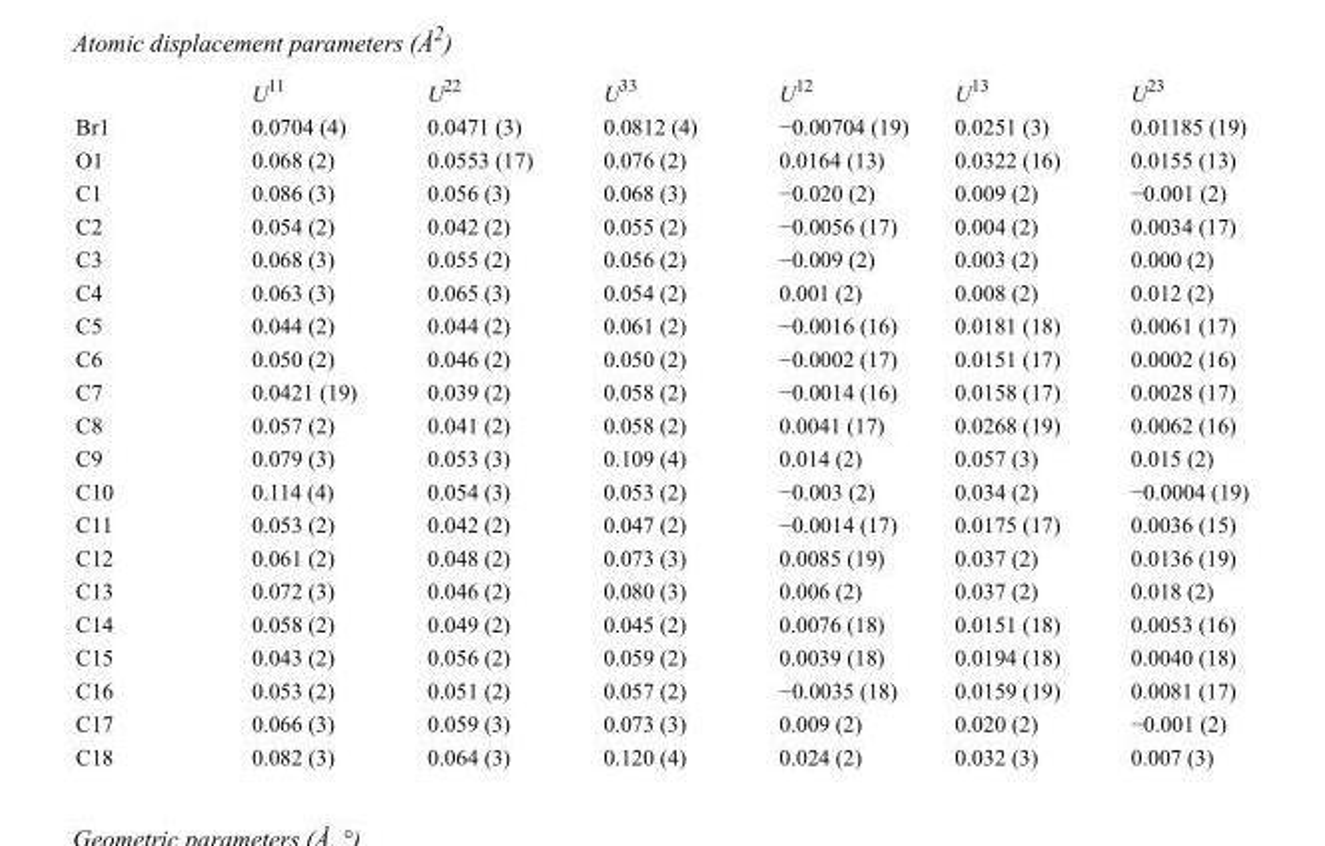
<table><thead><tr><td></td><td>U<sup>11</sup></td><td>U<sup>22</sup></td><td>U<sup>33</sup></td><td>U<sup>12</sup></td><td>U<sup>13</sup></td><td>U<sup>23</sup></td></tr></thead><tbody><tr><td>Br1</td><td>0.0704 (4)</td><td>0.0471 (3)</td><td>0.0812 (4)</td><td>−0.00704 (19)</td><td>0.0251 (3)</td><td>0.01185 (19)</td></tr><tr><td>O1</td><td>0.068 (2)</td><td>0.0553 (17)</td><td>0.076 (2)</td><td>0.0164 (13)</td><td>0.0322 (16)</td><td>0.0155 (13)</td></tr><tr><td>C1</td><td>0.086 (3)</td><td>0.056 (3)</td><td>0.068 (3)</td><td>−0.020 (2)</td><td>0.009 (2)</td><td>−0.001 (2)</td></tr><tr><td>C2</td><td>0.054 (2)</td><td>0.042 (2)</td><td>0.055 (2)</td><td>−0.0056 (17)</td><td>0.004 (2)</td><td>0.0034 (17)</td></tr><tr><td>C3</td><td>0.068 (3)</td><td>0.055 (2)</td><td>0.056 (2)</td><td>−0.009 (2)</td><td>0.003 (2)</td><td>0.000 (2)</td></tr><tr><td>C4</td><td>0.063 (3)</td><td>0.065 (3)</td><td>0.054 (2)</td><td>0.001 (2)</td><td>0.008 (2)</td><td>0.012 (2)</td></tr><tr><td>C5</td><td>0.044 (2)</td><td>0.044 (2)</td><td>0.061 (2)</td><td>−0.0016 (16)</td><td>0.0181 (18)</td><td>0.0061 (17)</td></tr><tr><td>C6</td><td>0.050 (2)</td><td>0.046 (2)</td><td>0.050 (2)</td><td>−0.0002 (17)</td><td>0.0151 (17)</td><td>0.0002 (16)</td></tr><tr><td>C7</td><td>0.0421 (19)</td><td>0.039 (2)</td><td>0.058 (2)</td><td>−0.0014 (16)</td><td>0.0158 (17)</td><td>0.0028 (17)</td></tr><tr><td>C8</td><td>0.057 (2)</td><td>0.041 (2)</td><td>0.058 (2)</td><td>0.0041 (17)</td><td>0.0268 (19)</td><td>0.0062 (16)</td></tr><tr><td>C9</td><td>0.079 (3)</td><td>0.053 (3)</td><td>0.109 (4)</td><td>0.014 (2)</td><td>0.057 (3)</td><td>0.015 (2)</td></tr><tr><td>C10</td><td>0.114 (4)</td><td>0.054 (3)</td><td>0.053 (2)</td><td>−0.003 (2)</td><td>0.034 (2)</td><td>−0.0004 (19)</td></tr><tr><td>C11</td><td>0.053 (2)</td><td>0.042 (2)</td><td>0.047 (2)</td><td>−0.0014 (17)</td><td>0.0175 (17)</td><td>0.0036 (15)</td></tr><tr><td>C12</td><td>0.061 (2)</td><td>0.048 (2)</td><td>0.073 (3)</td><td>0.0085 (19)</td><td>0.037 (2)</td><td>0.0136 (19)</td></tr><tr><td>C13</td><td>0.072 (3)</td><td>0.046 (2)</td><td>0.080 (3)</td><td>0.006 (2)</td><td>0.037 (2)</td><td>0.018 (2)</td></tr><tr><td>C14</td><td>0.058 (2)</td><td>0.049 (2)</td><td>0.045 (2)</td><td>0.0076 (18)</td><td>0.0151 (18)</td><td>0.0053 (16)</td></tr><tr><td>C15</td><td>0.043 (2)</td><td>0.056 (2)</td><td>0.059 (2)</td><td>0.0039 (18)</td><td>0.0194 (18)</td><td>0.0040 (18)</td></tr><tr><td>C16</td><td>0.053 (2)</td><td>0.051 (2)</td><td>0.057 (2)</td><td>−0.0035 (18)</td><td>0.0159 (19)</td><td>0.0081 (17)</td></tr><tr><td>C17</td><td>0.066 (3)</td><td>0.059 (3)</td><td>0.073 (3)</td><td>0.009 (2)</td><td>0.020 (2)</td><td>−0.001 (2)</td></tr><tr><td>C18</td><td>0.082 (3)</td><td>0.064 (3)</td><td>0.120 (4)</td><td>0.024 (2)</td><td>0.032 (3)</td><td>0.007 (3)</td></tr></tbody></table>